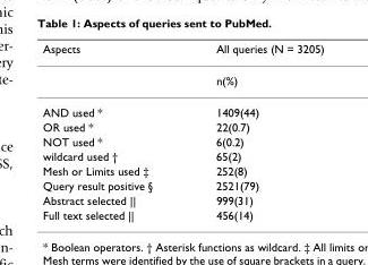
<table><thead><tr><td>Aspects</td><td>All queries (N = 3205)</td></tr></thead><tbody><tr><td></td><td>n(%)</td></tr><tr><td>AND used *</td><td>1409(44)</td></tr><tr><td>OR used *</td><td>22(0.7)</td></tr><tr><td>NOT used *</td><td>6(0.2)</td></tr><tr><td>wildcard used †</td><td>65(2)</td></tr><tr><td>Mesh or Limits used ‡</td><td>252(8)</td></tr><tr><td>Query result positive §</td><td>2521(79)</td></tr><tr><td>Abstract selected ||</td><td>999(31)</td></tr><tr><td>Full text selected ||</td><td>456(14)</td></tr></tbody></table>